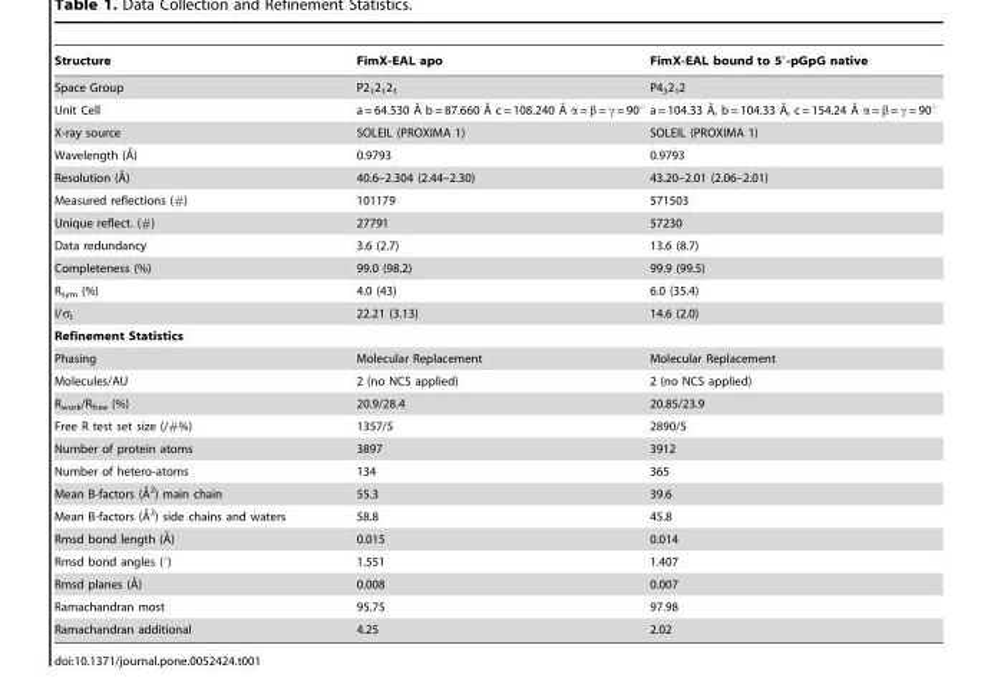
<table><thead><tr><td>Structure</td><td>FimX-EAL apo</td><td>FimX-EAL bound to 5′-pGpG native</td></tr></thead><tbody><tr><td>Space Group</td><td>P2<sub>1</sub>2<sub>1</sub>2<sub>1</sub></td><td>P4<sub>3</sub>2<sub>1</sub>2</td></tr><tr><td>Unit Cell</td><td>a = 64.530 A˚ b = 87.660 A˚ c = 108.240 A˚ a = b = c = 90u</td><td>a = 104.33 A˚, b = 104.33 A˚, c = 154.24 A˚ a = b = c = 90u</td></tr><tr><td>X-ray source</td><td>SOLEIL (PROXIMA 1)</td><td>SOLEIL (PROXIMA 1)</td></tr><tr><td>Wavelength (A˚)</td><td>0.9793</td><td>0.9793</td></tr><tr><td>Resolution (A˚)</td><td>40.6–2.304 (2.44–2.30)</td><td>43.20–2.01 (2.06–2.01)</td></tr><tr><td>Measured reflections (#)</td><td>101179</td><td>571503</td></tr><tr><td>Unique reflect. (#)</td><td>27791</td><td>57230</td></tr><tr><td>Data redundancy</td><td>3.6 (2.7)</td><td>13.6 (8.7)</td></tr><tr><td>Completeness (%)</td><td>99.0 (98.2)</td><td>99.9 (99.5)</td></tr><tr><td>R<sub>sym</sub> (%)</td><td>4.0 (43)</td><td>6.0 (35.4)</td></tr><tr><td>I/σ<sub>I</sub></td><td>22.21 (3.13)</td><td>14.6 (2.0)</td></tr><tr><td colspan="3">Refinement Statistics</td></tr><tr><td>Phasing</td><td>Molecular Replacement</td><td>Molecular Replacement</td></tr><tr><td>Molecules/AU</td><td>2 (no NCS applied)</td><td>2 (no NCS applied)</td></tr><tr><td>R<sub>work</sub>/R<sub>free</sub> (%)</td><td>20.9/28.4</td><td>20.85/23.9</td></tr><tr><td>Free R test set size (/#%)</td><td>1357/5</td><td>2890/5</td></tr><tr><td>Number of protein atoms</td><td>3897</td><td>3912</td></tr><tr><td>Number of hetero-atoms</td><td>134</td><td>365</td></tr><tr><td>Mean B-factors (A˚2) main chain</td><td>55.3</td><td>39.6</td></tr><tr><td>Mean B-factors (A˚2) side chains and waters</td><td>58.8</td><td>45.8</td></tr><tr><td>Rmsd bond length (A˚)</td><td>0.015</td><td>0.014</td></tr><tr><td>Rmsd bond angles (°)</td><td>1.551</td><td>1.407</td></tr><tr><td>Rmsd planes (A˚)</td><td>0.008</td><td>0.007</td></tr><tr><td>Ramachandran most</td><td>95.75</td><td>97.98</td></tr><tr><td>Ramachandran additional</td><td>4.25</td><td>2.02</td></tr></tbody></table>